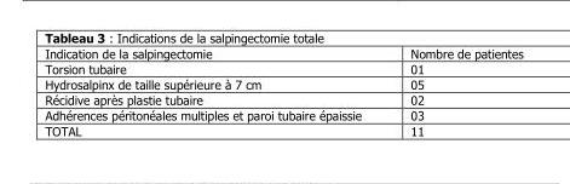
<table><thead><tr><td>Indication de la salpingectomie</td><td>Nombre de patientes</td></tr></thead><tbody><tr><td>Torsion tubaire</td><td>01</td></tr><tr><td>Hydrosalpinx de taille supérieure à 7 cm</td><td>05</td></tr><tr><td>Récidive après plastie tubaire</td><td>02</td></tr><tr><td>Adhérences péritonéales multiples et paroi tubaire épaissie</td><td>03</td></tr><tr><td>TOTAL</td><td>11</td></tr></tbody></table>